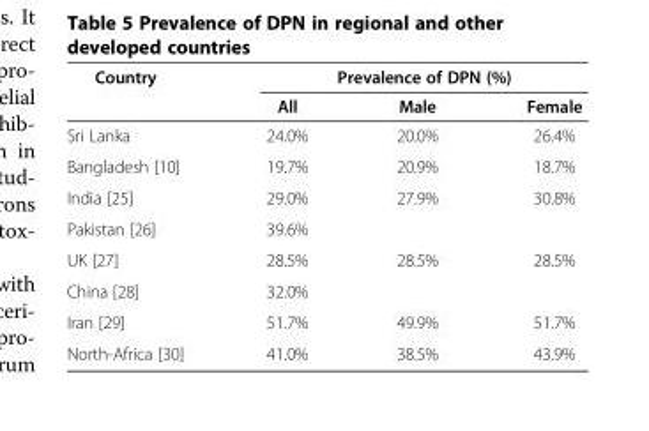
<table><thead><tr><td rowspan="2">Country</td><td colspan="3">Prevalence of DPN (%)</td></tr><tr><td>All</td><td>Male</td><td>Female</td></tr></thead><tbody><tr><td>Sri Lanka</td><td>24.0%</td><td>20.0%</td><td>26.4%</td></tr><tr><td>Bangladesh [10]</td><td>19.7%</td><td>20.9%</td><td>18.7%</td></tr><tr><td>India [25]</td><td>29.0%</td><td>27.9%</td><td>30.8%</td></tr><tr><td>Pakistan [26]</td><td>39.6%</td><td></td><td></td></tr><tr><td>UK [27]</td><td>28.5%</td><td>28.5%</td><td>28.5%</td></tr><tr><td>China [28]</td><td>32.0%</td><td></td><td></td></tr><tr><td>Iran [29]</td><td>51.7%</td><td>49.9%</td><td>51.7%</td></tr><tr><td>North-Africa [30]</td><td>41.0%</td><td>38.5%</td><td>43.9%</td></tr></tbody></table>